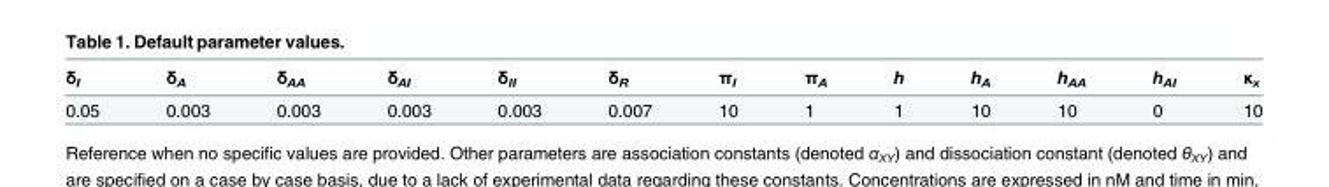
<table><thead><tr><td>δ<sub>I</sub></td><td>δ<sub>A</sub></td><td>δ<sub>AA</sub></td><td>δ<sub>AI</sub></td><td>δ<sub>II</sub></td><td>δ<sub>R</sub></td><td>π<sub>I</sub></td><td>π<sub>A</sub></td><td>h</td><td>h<sub>A</sub></td><td>h<sub>AA</sub></td><td>h<sub>AI</sub></td><td>κ<sub>x</sub></td></tr></thead><tbody><tr><td>0.05</td><td>0.003</td><td>0.003</td><td>0.003</td><td>0.003</td><td>0.007</td><td>10</td><td>1</td><td>1</td><td>10</td><td>10</td><td>0</td><td>10</td></tr></tbody></table>